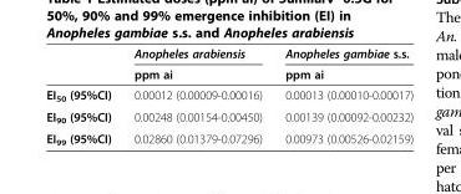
<table><thead><tr><td rowspan="2"></td><td rowspan="2">Anopheles arabiensis ppm ai</td><td rowspan="2">Anopheles gambiae s.s. ppm ai</td></tr><tr></tr></thead><tbody><tr><td>EI<sub>50</sub> (95%CI)</td><td>0.00012 (0.00009-0.00016)</td><td>0.00013 (0.00010-0.00017)</td></tr><tr><td>EI<sub>90</sub> (95%CI)</td><td>0.00248 (0.00154-0.00450)</td><td>0.00139 (0.00092-0.00232)</td></tr><tr><td>EI<sub>99</sub> (95%CI)</td><td>0.02860 (0.01379-0.07296)</td><td>0.00973 (0.00526-0.02159)</td></tr></tbody></table>